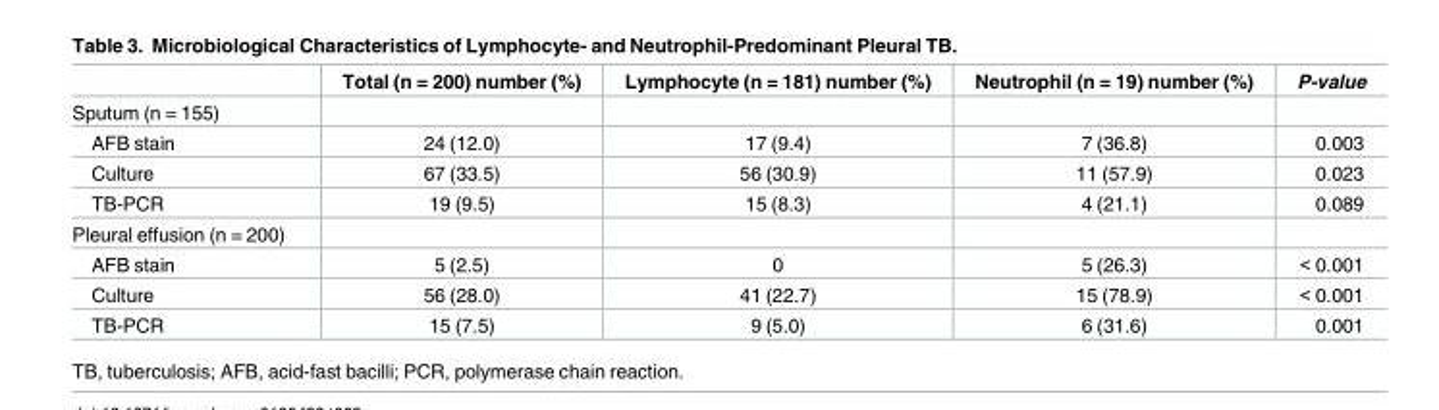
<table><thead><tr><td></td><td>Total (n = 200) number (%)</td><td>Lymphocyte (n = 181) number (%)</td><td>Neutrophil (n = 19) number (%)</td><td>P-value</td></tr></thead><tbody><tr><td colspan="5">Sputum (n = 155)</td></tr><tr><td>AFB stain</td><td>24 (12.0)</td><td>17 (9.4)</td><td>7 (36.8)</td><td>0.003</td></tr><tr><td>Culture</td><td>67 (33.5)</td><td>56 (30.9)</td><td>11 (57.9)</td><td>0.023</td></tr><tr><td>TB-PCR</td><td>19 (9.5)</td><td>15 (8.3)</td><td>4 (21.1)</td><td>0.089</td></tr><tr><td colspan="5">Pleural effusion (n = 200)</td></tr><tr><td>AFB stain</td><td>5 (2.5)</td><td>0</td><td>5 (26.3)</td><td>&lt; 0.001</td></tr><tr><td>Culture</td><td>56 (28.0)</td><td>41 (22.7)</td><td>15 (78.9)</td><td>&lt; 0.001</td></tr><tr><td>TB-PCR</td><td>15 (7.5)</td><td>9 (5.0)</td><td>6 (31.6)</td><td>0.001</td></tr></tbody></table>